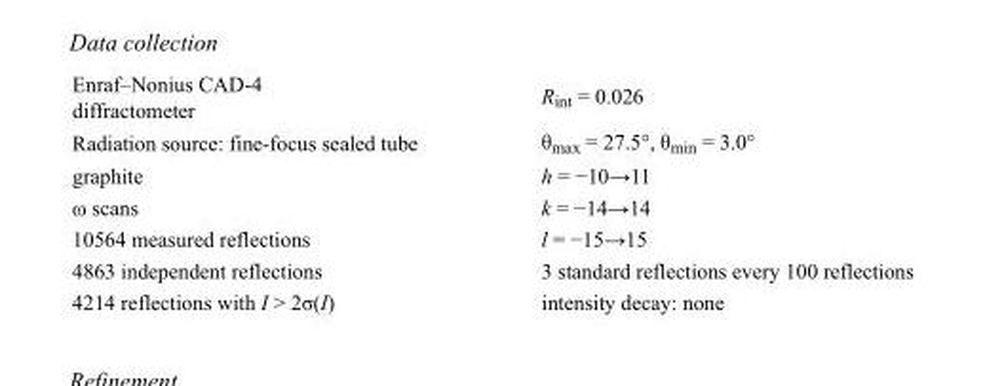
<table><tbody><tr><td>Enraf–Nonius CAD-4 diffractometer</td><td>R<sub>int</sub> = 0.026</td></tr><tr><td>Radiation source: fine-focus sealed tube</td><td>θ<sub>max</sub> = 27.5°, θ<sub>min</sub> = 3.0°</td></tr><tr><td>graphite</td><td>h = −10→11</td></tr><tr><td>ω scans</td><td>k = −14→14</td></tr><tr><td>10564 measured reflections</td><td>l = −15→15</td></tr><tr><td>4863 independent reflections</td><td>3 standard reflections every 100 reflections</td></tr><tr><td>4214 reflections with I &gt; 2σ(I)</td><td>intensity decay: none</td></tr></tbody></table>